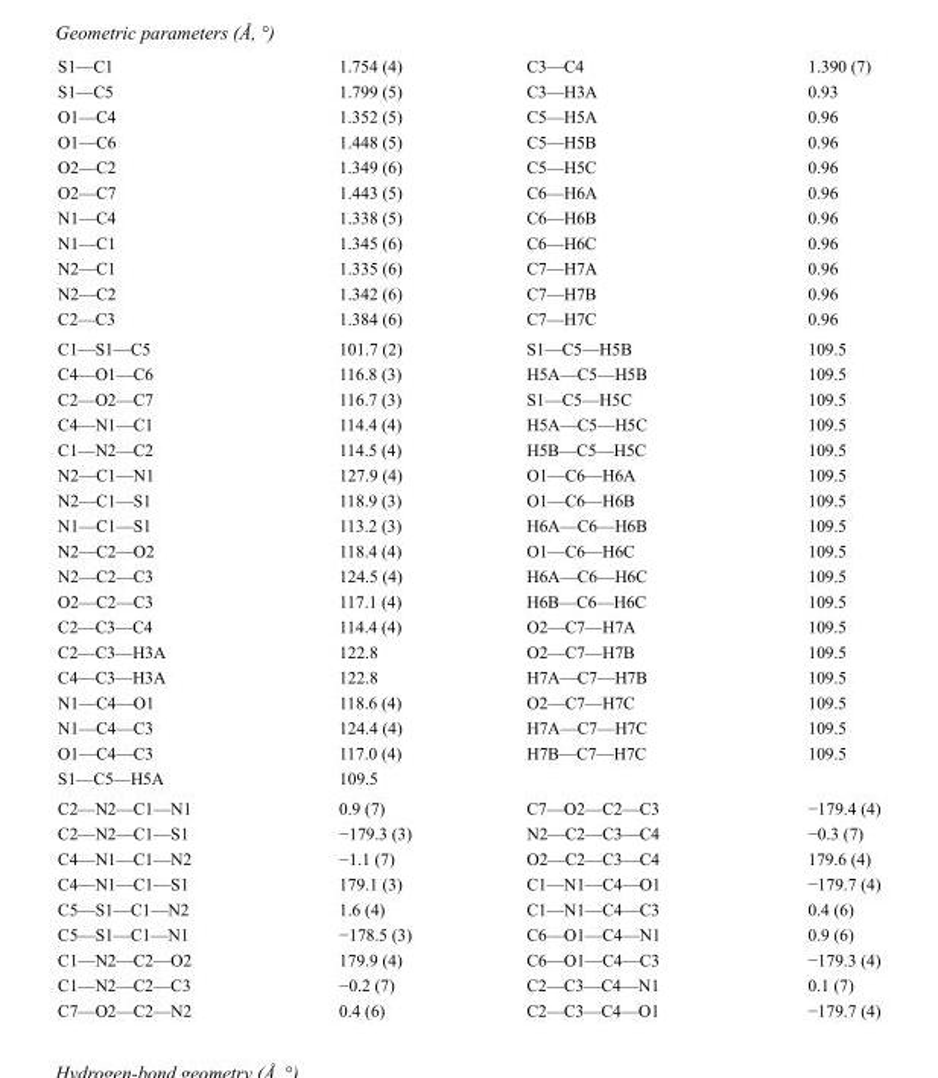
<table><tbody><tr><td>S1—C1</td><td>1.754 (4)</td><td>C3—C4</td><td>1.390 (7)</td></tr><tr><td>S1—C5</td><td>1.799 (5)</td><td>C3—H3A</td><td>0.93</td></tr><tr><td>O1—C4</td><td>1.352 (5)</td><td>C5—H5A</td><td>0.96</td></tr><tr><td>O1—C6</td><td>1.448 (5)</td><td>C5—H5B</td><td>0.96</td></tr><tr><td>O2—C2</td><td>1.349 (6)</td><td>C5—H5C</td><td>0.96</td></tr><tr><td>O2—C7</td><td>1.443 (5)</td><td>C6—H6A</td><td>0.96</td></tr><tr><td>N1—C4</td><td>1.338 (5)</td><td>C6—H6B</td><td>0.96</td></tr><tr><td>N1—C1</td><td>1.345 (6)</td><td>C6—H6C</td><td>0.96</td></tr><tr><td>N2—C1</td><td>1.335 (6)</td><td>C7—H7A</td><td>0.96</td></tr><tr><td>N2—C2</td><td>1.342 (6)</td><td>C7—H7B</td><td>0.96</td></tr><tr><td>C2—C3</td><td>1.384 (6)</td><td>C7—H7C</td><td>0.96</td></tr><tr><td>C1—S1—C5</td><td>101.7 (2)</td><td>S1—C5—H5B</td><td>109.5</td></tr><tr><td>C4—O1—C6</td><td>116.8 (3)</td><td>H5A—C5—H5B</td><td>109.5</td></tr><tr><td>C2—O2—C7</td><td>116.7 (3)</td><td>S1—C5—H5C</td><td>109.5</td></tr><tr><td>C4—N1—C1</td><td>114.4 (4)</td><td>H5A—C5—H5C</td><td>109.5</td></tr><tr><td>C1—N2—C2</td><td>114.5 (4)</td><td>H5B—C5—H5C</td><td>109.5</td></tr><tr><td>N2—C1—N1</td><td>127.9 (4)</td><td>O1—C6—H6A</td><td>109.5</td></tr><tr><td>N2—C1—S1</td><td>118.9 (3)</td><td>O1—C6—H6B</td><td>109.5</td></tr><tr><td>N1—C1—S1</td><td>113.2 (3)</td><td>H6A—C6—H6B</td><td>109.5</td></tr><tr><td>N2—C2—O2</td><td>118.4 (4)</td><td>O1—C6—H6C</td><td>109.5</td></tr><tr><td>N2—C2—C3</td><td>124.5 (4)</td><td>H6A—C6—H6C</td><td>109.5</td></tr><tr><td>O2—C2—C3</td><td>117.1 (4)</td><td>H6B—C6—H6C</td><td>109.5</td></tr><tr><td>C2—C3—C4</td><td>114.4 (4)</td><td>O2—C7—H7A</td><td>109.5</td></tr><tr><td>C2—C3—H3A</td><td>122.8</td><td>O2—C7—H7B</td><td>109.5</td></tr><tr><td>C4—C3—H3A</td><td>122.8</td><td>H7A—C7—H7B</td><td>109.5</td></tr><tr><td>N1—C4—O1</td><td>118.6 (4)</td><td>O2—C7—H7C</td><td>109.5</td></tr><tr><td>N1—C4—C3</td><td>124.4 (4)</td><td>H7A—C7—H7C</td><td>109.5</td></tr><tr><td>O1—C4—C3</td><td>117.0 (4)</td><td>H7B—C7—H7C</td><td>109.5</td></tr><tr><td>S1—C5—H5A</td><td>109.5</td><td></td><td></td></tr><tr><td>C2—N2—C1—N1</td><td>0.9 (7)</td><td>C7—O2—C2—C3</td><td>−179.4 (4)</td></tr><tr><td>C2—N2—C1—S1</td><td>−179.3 (3)</td><td>N2—C2—C3—C4</td><td>−0.3 (7)</td></tr><tr><td>C4—N1—C1—N2</td><td>−1.1 (7)</td><td>O2—C2—C3—C4</td><td>179.6 (4)</td></tr><tr><td>C4—N1—C1—S1</td><td>179.1 (3)</td><td>C1—N1—C4—O1</td><td>−179.7 (4)</td></tr><tr><td>C5—S1—C1—N2</td><td>1.6 (4)</td><td>C1—N1—C4—C3</td><td>0.4 (6)</td></tr><tr><td>C5—S1—C1—N1</td><td>−178.5 (3)</td><td>C6—O1—C4—N1</td><td>0.9 (6)</td></tr><tr><td>C1—N2—C2—O2</td><td>179.9 (4)</td><td>C6—O1—C4—C3</td><td>−179.3 (4)</td></tr><tr><td>C1—N2—C2—C3</td><td>−0.2 (7)</td><td>C2—C3—C4—N1</td><td>0.1 (7)</td></tr><tr><td>C7—O2—C2—N2</td><td>0.4 (6)</td><td>C2—C3—C4—O1</td><td>−179.7 (4)</td></tr></tbody></table>